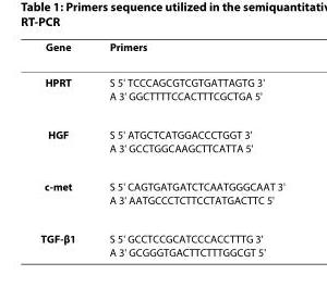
<table><thead><tr><td>Gene</td><td>Primers</td></tr></thead><tbody><tr><td>HPRT</td><td>S 5&#x27; TCCCAGCGTCGTGATTAGTG 3&#x27; A 3&#x27; GGCTTTTCCACTTTCGCTGA 5&#x27;</td></tr><tr><td>HGF</td><td>S 5&#x27; ATGCTCATGGACCCTGGT 3&#x27; A 3&#x27; GCCTGGCAAGCTTCATTA 5&#x27;</td></tr><tr><td>c-met</td><td>S 5&#x27; CAGTGATGATCTCAATGGGCAAT 3&#x27; A 3&#x27; AATGCCCTCTTCCTATGACTTC 5&#x27;</td></tr><tr><td>TGF-β1</td><td>S 5&#x27; GCCTCCGCATCCCACCTTTG 3&#x27; A 3&#x27; GCGGGTGACTTCTTTGGCGT 5&#x27;</td></tr></tbody></table>